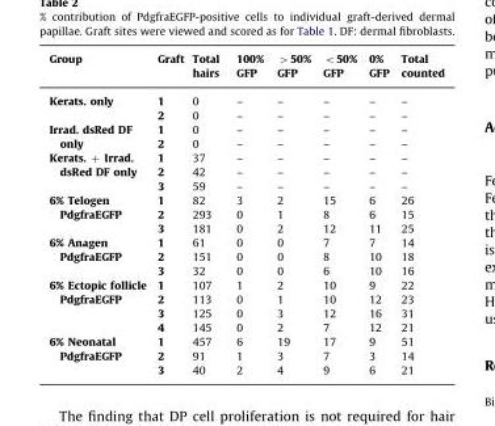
<table><thead><tr><td>Group</td><td>Graft</td><td>Total hairs</td><td>100% GFP</td><td>&gt;50% GFP</td><td>&lt;50% GFP</td><td>0% GFP</td><td>Total counted</td></tr></thead><tbody><tr><td rowspan="2">Kerats. only</td><td>1</td><td>0</td><td>–</td><td>–</td><td>–</td><td>–</td><td>–</td></tr><tr><td>2</td><td>0</td><td>–</td><td>–</td><td>–</td><td>–</td><td>–</td></tr><tr><td rowspan="2">Irrad. dsRed DF only</td><td>1</td><td>0</td><td>–</td><td>–</td><td>–</td><td>–</td><td>–</td></tr><tr><td>2</td><td>0</td><td>–</td><td>–</td><td>–</td><td>–</td><td>–</td></tr><tr><td rowspan="3">Kerats. + Irrad. dsRed DF only</td><td>1</td><td>37</td><td>–</td><td>–</td><td>–</td><td>–</td><td>–</td></tr><tr><td>2</td><td>42</td><td>–</td><td>–</td><td>–</td><td>–</td><td>–</td></tr><tr><td>3</td><td>59</td><td>–</td><td>–</td><td>–</td><td>–</td><td>–</td></tr><tr><td rowspan="3">6% Telogen PdgfraEGFP</td><td>1</td><td>82</td><td>3</td><td>2</td><td>15</td><td>6</td><td>26</td></tr><tr><td>2</td><td>293</td><td>0</td><td>1</td><td>8</td><td>6</td><td>15</td></tr><tr><td>3</td><td>181</td><td>0</td><td>2</td><td>12</td><td>11</td><td>25</td></tr><tr><td rowspan="3">6% Anagen PdgfraEGFP</td><td>1</td><td>61</td><td>0</td><td>0</td><td>7</td><td>7</td><td>14</td></tr><tr><td>2</td><td>151</td><td>0</td><td>0</td><td>8</td><td>10</td><td>18</td></tr><tr><td>3</td><td>32</td><td>0</td><td>0</td><td>6</td><td>10</td><td>16</td></tr><tr><td rowspan="4">6% Ectopic follicle PdgfraEGFP</td><td>1</td><td>107</td><td>1</td><td>2</td><td>10</td><td>9</td><td>22</td></tr><tr><td>2</td><td>113</td><td>0</td><td>1</td><td>10</td><td>12</td><td>23</td></tr><tr><td>3</td><td>125</td><td>0</td><td>3</td><td>12</td><td>16</td><td>31</td></tr><tr><td>4</td><td>145</td><td>0</td><td>2</td><td>7</td><td>12</td><td>21</td></tr><tr><td rowspan="3">6% Neonatal PdgfraEGFP</td><td>1</td><td>457</td><td>6</td><td>19</td><td>17</td><td>9</td><td>51</td></tr><tr><td>2</td><td>91</td><td>1</td><td>3</td><td>7</td><td>3</td><td>14</td></tr><tr><td>3</td><td>40</td><td>2</td><td>4</td><td>9</td><td>6</td><td>21</td></tr></tbody></table>